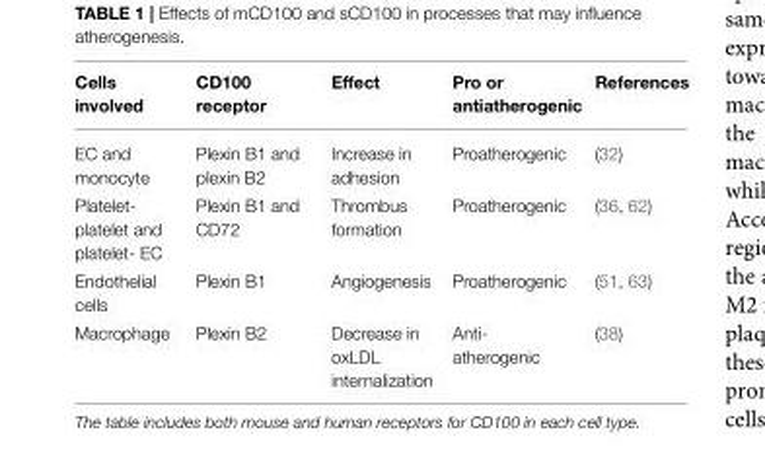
<table><thead><tr><td>Cells involved</td><td>CD100 receptor</td><td>Effect</td><td>Pro or antiatherogenic</td><td>References</td></tr></thead><tbody><tr><td>EC and monocyte</td><td>Plexin B1 and plexin B2</td><td>Increase in adhesion</td><td>Proatherogenic</td><td>(32)</td></tr><tr><td>Platelet- platelet and platelet- EC</td><td>Plexin B1 and CD72</td><td>Thrombus formation</td><td>Proatherogenic</td><td>(36, 62)</td></tr><tr><td>Endothelial cells</td><td>Plexin B1</td><td>Angiogenesis</td><td>Proatherogenic</td><td>(51, 63)</td></tr><tr><td>Macrophage</td><td>Plexin B2</td><td>Decrease in oxLDL internalization</td><td>Anti- atherogenic</td><td>(38)</td></tr></tbody></table>